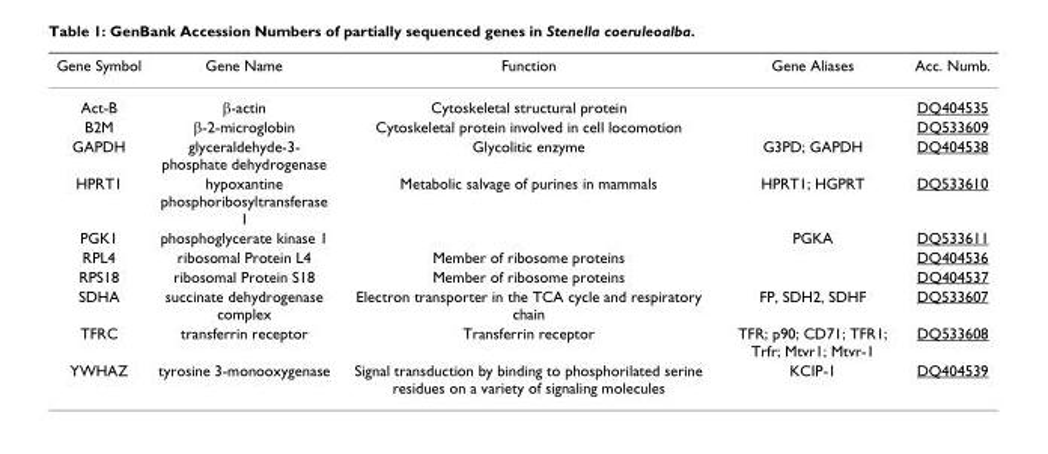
<table><thead><tr><td>Gene Symbol</td><td>Gene Name</td><td>Function</td><td>Gene Aliases</td><td>Acc. Numb.</td></tr></thead><tbody><tr><td>Act-B</td><td>β-actin</td><td>Cytoskeletal structural protein</td><td></td><td>DQ404535</td></tr><tr><td>B2M</td><td>β-2-microglobin</td><td>Cytoskeletal protein involved in cell locomotion</td><td></td><td>DQ533609</td></tr><tr><td>GAPDH</td><td>glyceraldehyde-3- phosphate dehydrogenase</td><td>Glycolitic enzyme</td><td>G3PD; GAPDH</td><td>DQ404538</td></tr><tr><td>HPRT1</td><td>hypoxantine phosphoribosyltransferase 1</td><td>Metabolic salvage of purines in mammals</td><td>HPRT1; HGPRT</td><td>DQ533610</td></tr><tr><td>PGK1</td><td>phosphoglycerate kinase 1</td><td></td><td>PGKA</td><td>DQ533611</td></tr><tr><td>RPL4</td><td>ribosomal Protein L4</td><td>Member of ribosome proteins</td><td></td><td>DQ404536</td></tr><tr><td>RPS18</td><td>ribosomal Protein S18</td><td>Member of ribosome proteins</td><td></td><td>DQ404537</td></tr><tr><td>SDHA</td><td>succinate dehydrogenase complex</td><td>Electron transporter in the TCA cycle and respiratory chain</td><td>FP, SDH2, SDHF</td><td>DQ533607</td></tr><tr><td>TFRC</td><td>transferrin receptor</td><td>Transferrin receptor</td><td>TFR; p90; CD71; TFR1; Trfr; Mtvr1; Mtvr-1</td><td>DQ533608</td></tr><tr><td>YWHAZ</td><td>tyrosine 3-monooxygenase</td><td>Signal transduction by binding to phosphorilated serine residues on a variety of signaling molecules</td><td>KCIP-1</td><td>DQ404539</td></tr></tbody></table>